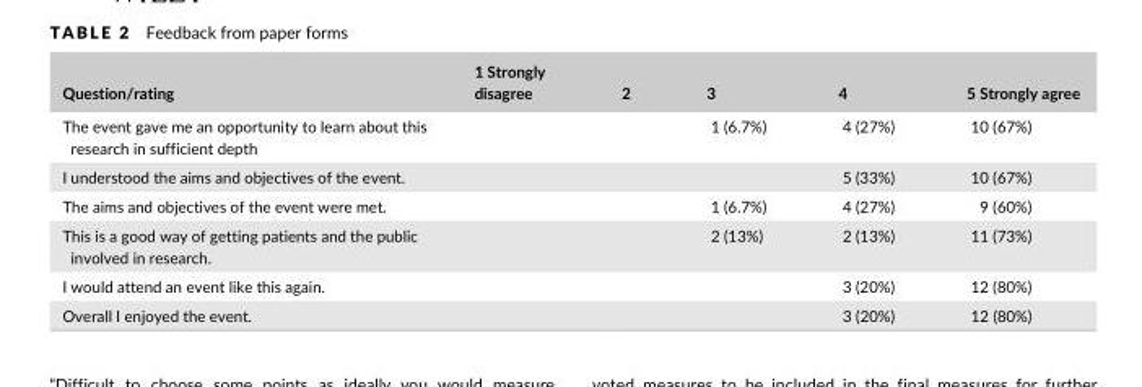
<table><thead><tr><td>Question/rating</td><td>1 Strongly disagree</td><td>2</td><td>3</td><td>4</td><td>5 Strongly agree</td></tr></thead><tbody><tr><td>The event gave me an opportunity to learn about this research in sufficient depth</td><td></td><td></td><td>1 (6.7%)</td><td>4 (27%)</td><td>10 (67%)</td></tr><tr><td>I understood the aims and objectives of the event.</td><td></td><td></td><td></td><td>5 (33%)</td><td>10 (67%)</td></tr><tr><td>The aims and objectives of the event were met.</td><td></td><td></td><td>1 (6.7%)</td><td>4 (27%)</td><td>9 (60%)</td></tr><tr><td>This is a good way of getting patients and the public involved in research.</td><td></td><td></td><td>2 (13%)</td><td>2 (13%)</td><td>11 (73%)</td></tr><tr><td>I would attend an event like this again.</td><td></td><td></td><td></td><td>3 (20%)</td><td>12 (80%)</td></tr><tr><td>Overall I enjoyed the event.</td><td></td><td></td><td></td><td>3 (20%)</td><td>12 (80%)</td></tr></tbody></table>